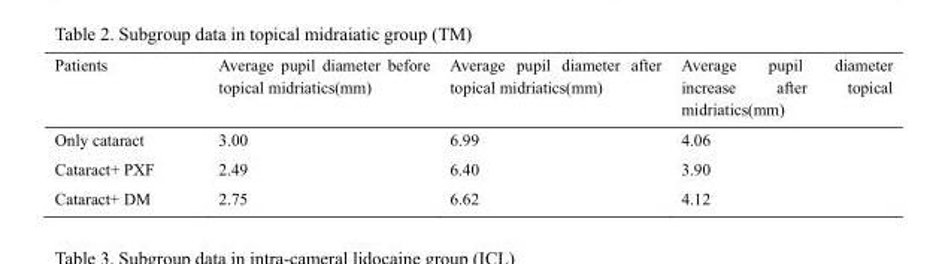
<table><thead><tr><td>Patients</td><td>Average pupil diameter before topical midriatics(mm)</td><td>Average pupil diameter after topical midriatics(mm)</td><td>Average pupil diameter increase after topical midriatics(mm)</td></tr></thead><tbody><tr><td>Only cataract</td><td>3.00</td><td>6.99</td><td>4.06</td></tr><tr><td>Cataract+ PXF</td><td>2.49</td><td>6.40</td><td>3.90</td></tr><tr><td>Cataract+ DM</td><td>2.75</td><td>6.62</td><td>4.12</td></tr></tbody></table>